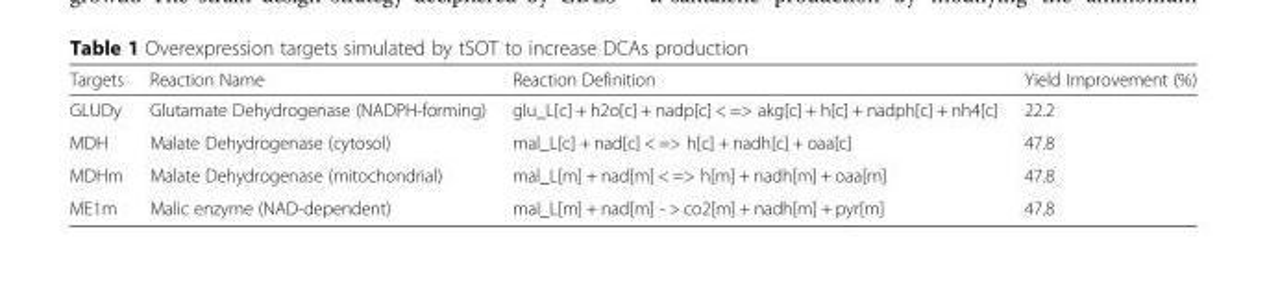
<table><thead><tr><td>Targets</td><td>Reaction Name</td><td>Reaction Definition</td><td>Yield Improvement (%)</td></tr></thead><tbody><tr><td>GLUDy</td><td>Glutamate Dehydrogenase (NADPH-forming)</td><td>glu_L[c] + h2o[c] + nadp[c] &lt; =&gt; akg[c] + h[c] + nadph[c] + nh4[c]</td><td>22.2</td></tr><tr><td>MDH</td><td>Malate Dehydrogenase (cytosol)</td><td>mal_L[c] + nad[c] &lt; =&gt; h[c] + nadh[c] + oaa[c]</td><td>47.8</td></tr><tr><td>MDHm</td><td>Malate Dehydrogenase (mitochondrial)</td><td>mal_L[m] + nad[m] &lt; =&gt; h[m] + nadh[m] + oaa[m]</td><td>47.8</td></tr><tr><td>ME1m</td><td>Malic enzyme (NAD-dependent)</td><td>mal_L[m] + nad[m] - &gt; co2[m] + nadh[m] + pyr[m]</td><td>47.8</td></tr></tbody></table>